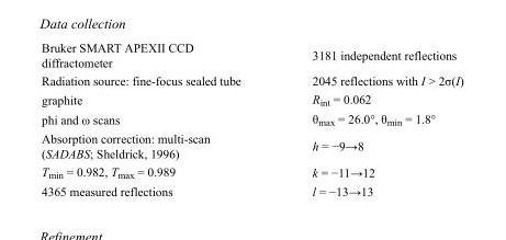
<table><tbody><tr><td>Bruker SMART APEXII CCD diffractometer</td><td>3181 independent reflections</td></tr><tr><td>Radiation source: fine-focus sealed tube</td><td>2045 reflections with I &gt; 2σ(I)</td></tr><tr><td>graphite</td><td>R<sub>int</sub> = 0.062</td></tr><tr><td>phi and ω scans</td><td>θ<sub>max</sub> = 26.0°, θ<sub>min</sub> = 1.8°</td></tr><tr><td>Absorption correction: multi-scan (SADABS; Sheldrick, 1996)</td><td>h = −9→8</td></tr><tr><td>T<sub>min</sub> = 0.982, T<sub>max</sub> = 0.989</td><td>k = −11→12</td></tr><tr><td>4365 measured reflections</td><td>l = −13→13</td></tr></tbody></table>